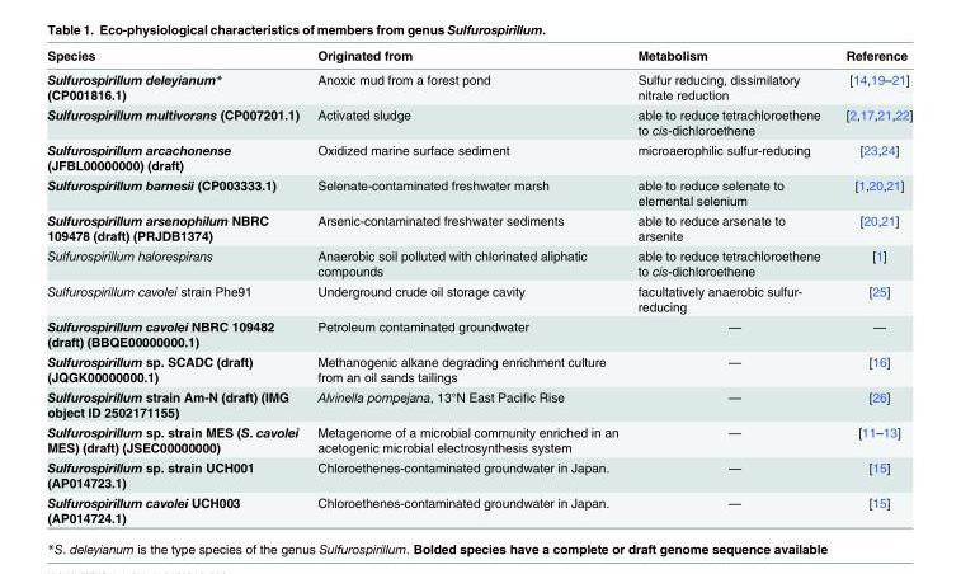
<table><thead><tr><td>Species</td><td>Originated from</td><td>Metabolism</td><td>Reference</td></tr></thead><tbody><tr><td>Sulfurospirillum deleyianum* (CP001816.1)</td><td>Anoxic mud from a forest pond</td><td>Sulfur reducing, dissimilatory nitrate reduction</td><td>[14,19–21]</td></tr><tr><td>Sulfurospirillum multivorans (CP007201.1)</td><td>Activated sludge</td><td>able to reduce tetrachloroethene to cis-dichloroethene</td><td>[2,17,21,22]</td></tr><tr><td>Sulfurospirillum arcachonense (JFBL00000000) (draft)</td><td>Oxidized marine surface sediment</td><td>microaerophilic sulfur-reducing</td><td>[23,24]</td></tr><tr><td>Sulfurospirillum barnesii (CP003333.1)</td><td>Selenate-contaminated freshwater marsh</td><td>able to reduce selenate to elemental selenium</td><td>[1,20,21]</td></tr><tr><td>Sulfurospirillum arsenophilum NBRC 109478 (draft) (PRJDB1374)</td><td>Arsenic-contaminated freshwater sediments</td><td>able to reduce arsenate to arsenite</td><td>[20,21]</td></tr><tr><td>Sulfurospirillum halorespirans</td><td>Anaerobic soil polluted with chlorinated aliphatic compounds</td><td>able to reduce tetrachloroethene to cis-dichloroethene</td><td>[1]</td></tr><tr><td>Sulfurospirillum cavolei strain Phe91</td><td>Underground crude oil storage cavity</td><td>facultatively anaerobic sulfur- reducing</td><td>[25]</td></tr><tr><td>Sulfurospirillum cavolei NBRC 109482 (draft) (BBQE00000000.1)</td><td>Petroleum contaminated groundwater</td><td>—</td><td>—</td></tr><tr><td>Sulfurospirillum sp. SCADC (draft) (JQGK00000000.1)</td><td>Methanogenic alkane degrading enrichment culture from an oil sands tailings</td><td>—</td><td>[16]</td></tr><tr><td>Sulfurospirillum strain Am-N (draft) (IMG object ID 2502171155)</td><td>Alvinella pompejana, 13°N East Pacific Rise</td><td>—</td><td>[26]</td></tr><tr><td>Sulfurospirillum sp. strain MES (S. cavolei MES) (draft) (JSEC00000000)</td><td>Metagenome of a microbial community enriched in an acetogenic microbial electrosynthesis system</td><td>—</td><td>[11–13]</td></tr><tr><td>Sulfurospirillum sp. strain UCH001 (AP014723.1)</td><td>Chloroethenes-contaminated groundwater in Japan.</td><td>—</td><td>[15]</td></tr><tr><td>Sulfurospirillum cavolei UCH003 (AP014724.1)</td><td>Chloroethenes-contaminated groundwater in Japan.</td><td>—</td><td>[15]</td></tr></tbody></table>